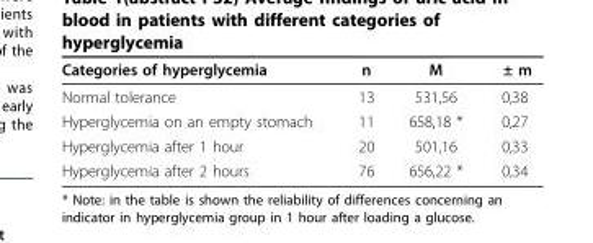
<table><thead><tr><td>Categories of hyperglycemia</td><td>n</td><td>M</td><td>± m</td></tr></thead><tbody><tr><td>Normal tolerance</td><td>13</td><td>531,56</td><td>0,38</td></tr><tr><td>Hyperglycemia on an empty stomach</td><td>11</td><td>658,18 *</td><td>0,27</td></tr><tr><td>Hyperglycemia after 1 hour</td><td>20</td><td>501,16</td><td>0,33</td></tr><tr><td>Hyperglycemia after 2 hours</td><td>76</td><td>656,22 *</td><td>0,34</td></tr></tbody></table>